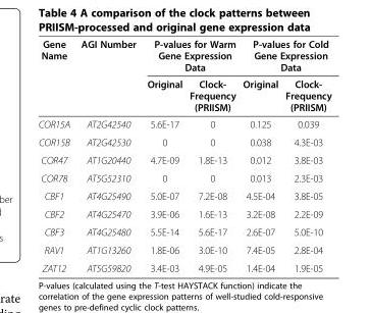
<table><thead><tr><td rowspan="2">Gene Name</td><td rowspan="2">AGI Number</td><td colspan="2">P-values for Warm Gene Expression Data</td><td colspan="2">P-values for Cold Gene Expression Data</td></tr><tr><td>Original</td><td>Clock- Frequency (PRIISM)</td><td>Original</td><td>Clock- Frequency (PRIISM)</td></tr></thead><tbody><tr><td>COR15A</td><td>AT2G42540</td><td>5.6E-17</td><td>0</td><td>0.125</td><td>0.039</td></tr><tr><td>COR15B</td><td>AT2G42530</td><td>0</td><td>0</td><td>0.038</td><td>4.3E-03</td></tr><tr><td>COR47</td><td>AT1G20440</td><td>4.7E-09</td><td>1.8E-13</td><td>0.012</td><td>3.8E-03</td></tr><tr><td>COR78</td><td>AT5G52310</td><td>0</td><td>0</td><td>0.013</td><td>2.3E-03</td></tr><tr><td>CBF1</td><td>AT4G25490</td><td>5.0E-07</td><td>7.2E-08</td><td>4.5E-04</td><td>3.8E-05</td></tr><tr><td>CBF2</td><td>AT4G25470</td><td>3.9E-06</td><td>1.6E-13</td><td>3.2E-08</td><td>2.2E-09</td></tr><tr><td>CBF3</td><td>AT4G25480</td><td>5.5E-14</td><td>5.6E-17</td><td>2.6E-07</td><td>5.0E-10</td></tr><tr><td>RAV1</td><td>AT1G13260</td><td>1.8E-06</td><td>3.0E-10</td><td>7.4E-05</td><td>2.8E-04</td></tr><tr><td>ZAT12</td><td>AT5G59820</td><td>3.4E-03</td><td>4.9E-05</td><td>1.4E-04</td><td>1.9E-05</td></tr></tbody></table>